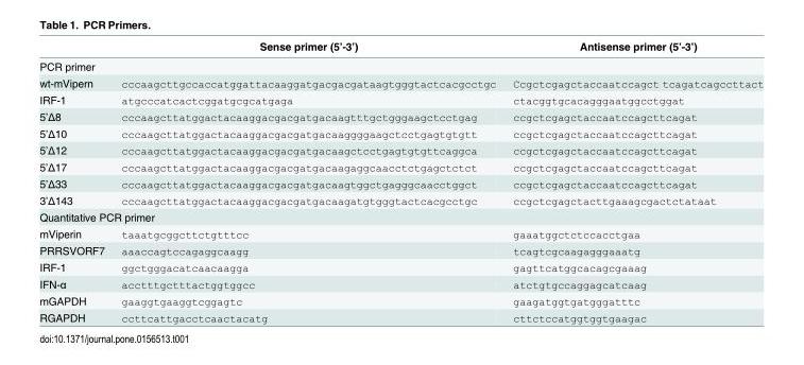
<table><thead><tr><td></td><td>Sense primer (5’-3’)</td><td>Antisense primer (5’-3’)</td></tr></thead><tbody><tr><td colspan="3">PCR primer</td></tr><tr><td>wt-mVipern</td><td>cccaagcttgccaccatggattacaaggatgacgacgataagtgggtactcacgcctgc</td><td>Ccgctcgagctaccaatccagct tcagatcagccttact</td></tr><tr><td>IRF-1</td><td>atgcccatcactcggatgcgcatgaga</td><td>ctacggtgcacagggaatggcctggat</td></tr><tr><td>5’Δ8</td><td>cccaagcttatggactacaaggacgacgatgacaagtttgctgggaagctcctgag</td><td>ccgctcgagctaccaatccagcttcagat</td></tr><tr><td>5’Δ10</td><td>cccaagcttatggactacaaggacgacgatgacaaggggaagctcctgagtgtgtt</td><td>ccgctcgagctaccaatccagcttcagat</td></tr><tr><td>5’Δ12</td><td>cccaagcttatggactacaaggacgacgatgacaagctcctgagtgtgttcaggca</td><td>ccgctcgagctaccaatccagcttcagat</td></tr><tr><td>5’Δ17</td><td>cccaagcttatggactacaaggacgacgatgacaagaggcaacctctgagctctct</td><td>ccgctcgagctaccaatccagcttcagat</td></tr><tr><td>5’Δ33</td><td>cccaagcttatggactacaaggacgacgatgacaagtggctgagggcaacctggct</td><td>ccgctcgagctaccaatccagcttcagat</td></tr><tr><td>3’Δ143</td><td>cccaagcttatggactacaaggacgacgatgacaagatgtgggtactcacgcctgc</td><td>ccgctcgagctacttgaaagcgactctataat</td></tr><tr><td colspan="3">Quantitative PCR primer</td></tr><tr><td>mViperin</td><td>taaatgcggcttctgtttcc</td><td>gaaatggctctccacctgaa</td></tr><tr><td>PRRSVORF7</td><td>aaaccagtccagaggcaagg</td><td>tcagtcgcaagagggaaatg</td></tr><tr><td>IRF-1</td><td>ggctgggacatcaacaagga</td><td>gagttcatggcacagcgaaag</td></tr><tr><td>IFN-α</td><td>acctttgctttactggtggcc</td><td>atctgtgccaggagcatcaag</td></tr><tr><td>mGAPDH</td><td>gaaggtgaaggtcggagtc</td><td>gaagatggtgatgggatttc</td></tr><tr><td>RGAPDH</td><td>ccttcattgacctcaactacatg</td><td>cttctccatggtggtgaagac</td></tr></tbody></table>